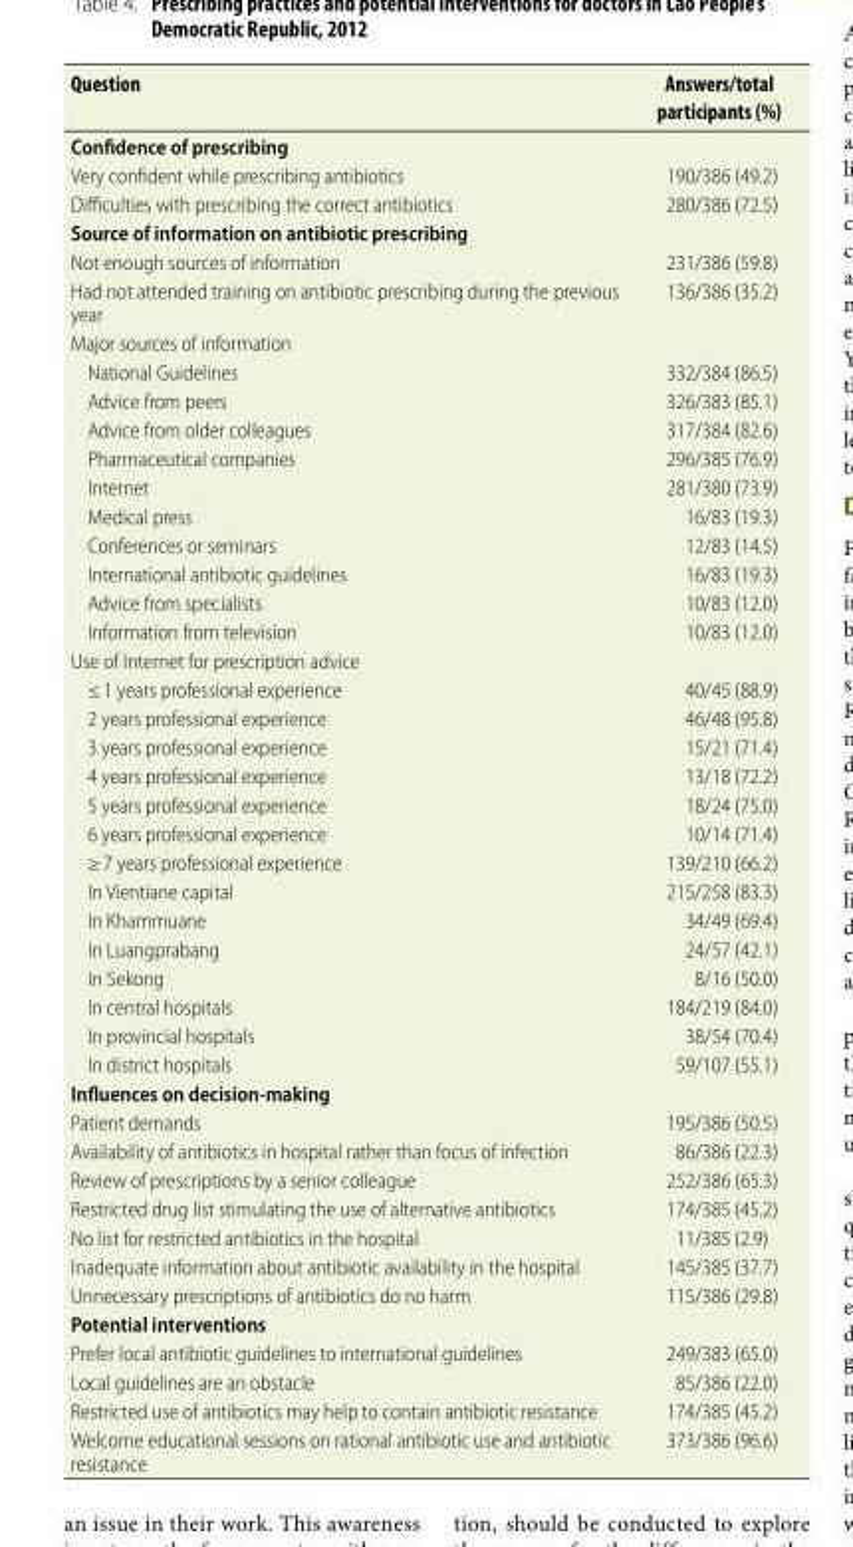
<table><thead><tr><td>Question</td><td>Answers/total participants (%)</td></tr></thead><tbody><tr><td colspan="2">Confidence of prescribing</td></tr><tr><td>Very confident while prescribing antibiotics</td><td>190/386 (49.2)</td></tr><tr><td>Difficulties with prescribing the correct antibiotics</td><td>280/386 (72.5)</td></tr><tr><td colspan="2">Source of information on antibiotic prescribing</td></tr><tr><td>Not enough sources of information</td><td>231/386 (59.8)</td></tr><tr><td>Had not attended training on antibiotic prescribing during the previous year</td><td>136/386 (35.2)</td></tr><tr><td colspan="2">Major sources of information</td></tr><tr><td>National Guidelines</td><td>332/384 (86.5)</td></tr><tr><td>Advice from peers</td><td>326/383 (85.1)</td></tr><tr><td>Advice from older colleagues</td><td>317/384 (82.6)</td></tr><tr><td>Pharmaceutical companies</td><td>296/385 (76.9)</td></tr><tr><td>Internet</td><td>281/380 (73.9)</td></tr><tr><td>Medical press</td><td>16/83 (19.3)</td></tr><tr><td>Conferences or seminars</td><td>12/83 (14.5)</td></tr><tr><td>International antibiotic guidelines</td><td>16/83 (19.3)</td></tr><tr><td>Advice from specialists</td><td>10/83 (12.0)</td></tr><tr><td>Information from television</td><td>10/83 (12.0)</td></tr><tr><td colspan="2">Use of Internet for prescription advice</td></tr><tr><td>≤ 1 years professional experience</td><td>40/45 (88.9)</td></tr><tr><td>2 years professional experience</td><td>46/48 (95.8)</td></tr><tr><td>3 years professional experience</td><td>15/21 (71.4)</td></tr><tr><td>4 years professional experience</td><td>13/18 (72.2)</td></tr><tr><td>5 years professional experience</td><td>18/24 (75.0)</td></tr><tr><td>6 years professional experience</td><td>10/14 (71.4)</td></tr><tr><td>≥ 7 years professional experience</td><td>139/210 (66.2)</td></tr><tr><td>In Vientiane capital</td><td>215/258 (83.3)</td></tr><tr><td>In Khammuane</td><td>34/49 (69.4)</td></tr><tr><td>In Luangprabang</td><td>24/57 (42.1)</td></tr><tr><td>In Sekong</td><td>8/16 (50.0)</td></tr><tr><td>In central hospitals</td><td>184/219 (84.0)</td></tr><tr><td>In provincial hospitals</td><td>38/54 (70.4)</td></tr><tr><td>In district hospitals</td><td>59/107 (55.1)</td></tr><tr><td colspan="2">Influences on decision-making</td></tr><tr><td>Patient demands</td><td>195/386 (50.5)</td></tr><tr><td>Availability of antibiotics in hospital rather than focus of infection</td><td>86/386 (22.3)</td></tr><tr><td>Review of prescriptions by a senior colleague</td><td>252/386 (65.3)</td></tr><tr><td>Restricted drug list stimulating the use of alternative antibiotics</td><td>174/385 (45.2)</td></tr><tr><td>No list for restricted antibiotics in the hospital</td><td>11/385 (2.9)</td></tr><tr><td>Inadequate information about antibiotic availability in the hospital</td><td>145/385 (37.7)</td></tr><tr><td>Unnecessary prescriptions of antibiotics do no harm</td><td>115/386 (29.8)</td></tr><tr><td colspan="2">Potential interventions</td></tr><tr><td>Prefer local antibiotic guidelines to international guidelines</td><td>249/383 (65.0)</td></tr><tr><td>Local guidelines are an obstacle</td><td>85/386 (22.0)</td></tr><tr><td>Restricted use of antibiotics may help to contain antibiotic resistance</td><td>174/385 (45.2)</td></tr><tr><td>Welcome educational sessions on rational antibiotic use and antibiotic resistance</td><td>373/386 (96.6)</td></tr></tbody></table>